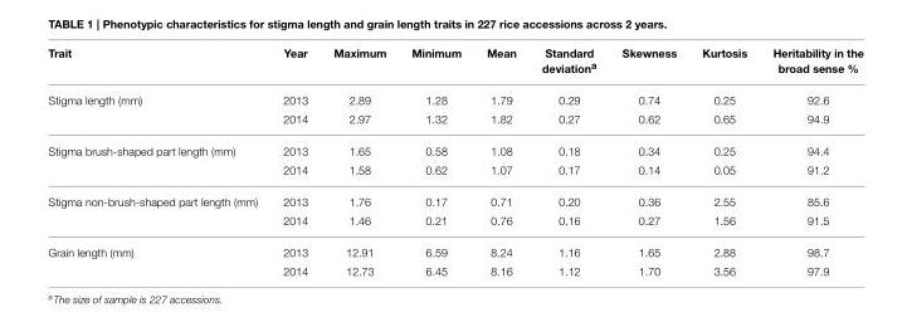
<table><thead><tr><td>Trait</td><td>Year</td><td>Maximum</td><td>Minimum</td><td>Mean</td><td>Standard deviation<sup>a</sup></td><td>Skewness</td><td>Kurtosis</td><td>Heritability in the broad sense %</td></tr></thead><tbody><tr><td rowspan="2">Stigma length (mm)</td><td>2013</td><td>2.89</td><td>1.28</td><td>1.79</td><td>0.29</td><td>0.74</td><td>0.25</td><td>92.6</td></tr><tr><td>2014</td><td>2.97</td><td>1.32</td><td>1.82</td><td>0.27</td><td>0.62</td><td>0.65</td><td>94.9</td></tr><tr><td rowspan="2">Stigma brush-shaped part length (mm)</td><td>2013</td><td>1.65</td><td>0.58</td><td>1.08</td><td>0.18</td><td>0.34</td><td>0.25</td><td>94.4</td></tr><tr><td>2014</td><td>1.58</td><td>0.62</td><td>1.07</td><td>0.17</td><td>0.14</td><td>0.05</td><td>91.2</td></tr><tr><td rowspan="2">Stigma non-brush-shaped part length (mm)</td><td>2013</td><td>1.76</td><td>0.17</td><td>0.71</td><td>0.20</td><td>0.36</td><td>2.55</td><td>85.6</td></tr><tr><td>2014</td><td>1.46</td><td>0.21</td><td>0.76</td><td>0.16</td><td>0.27</td><td>1.56</td><td>91.5</td></tr><tr><td rowspan="2">Grain length (mm)</td><td>2013</td><td>12.91</td><td>6.59</td><td>8.24</td><td>1.16</td><td>1.65</td><td>2.88</td><td>98.7</td></tr><tr><td>2014</td><td>12.73</td><td>6.45</td><td>8.16</td><td>1.12</td><td>1.70</td><td>3.56</td><td>97.9</td></tr></tbody></table>